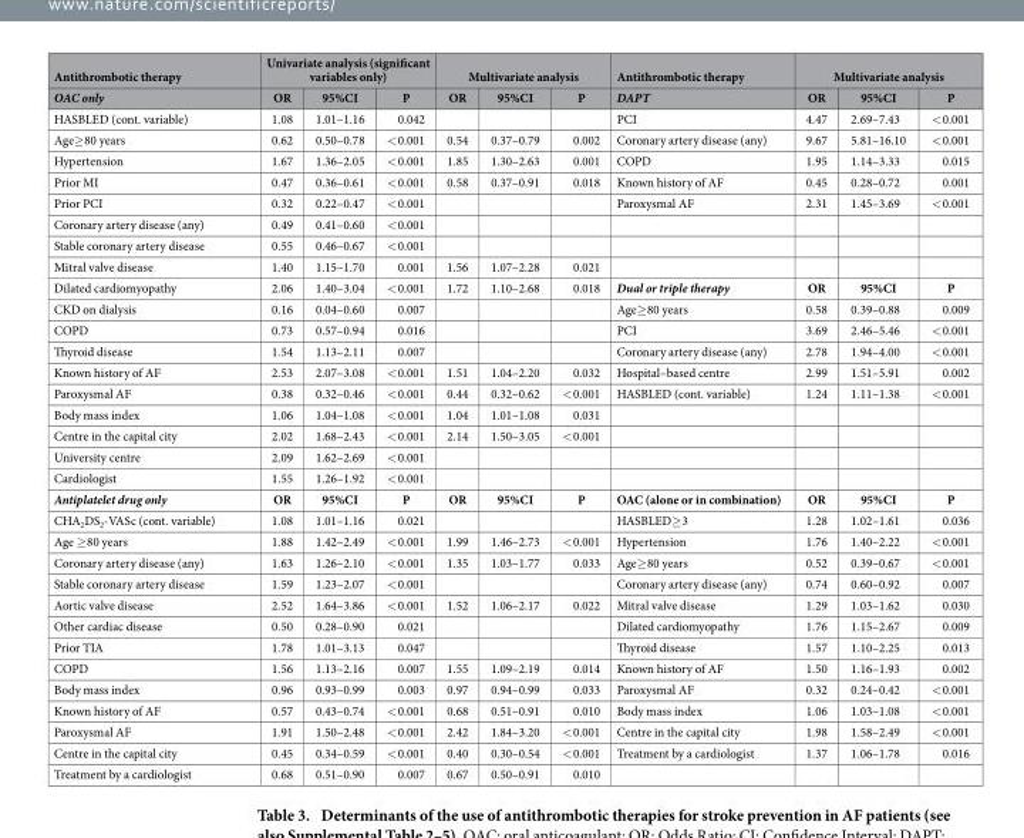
<table><thead><tr><td rowspan="2">Antithrombotic therapy OAC only</td><td colspan="3">Univariate analysis (significant variables only)</td><td colspan="3">Multivariate analysis</td><td rowspan="2">Antithrombotic therapy DAPT</td><td colspan="3">Multivariate analysis</td></tr><tr><td>OR</td><td>95%CI</td><td>P</td><td>OR</td><td>95%CI</td><td>P</td><td>OR</td><td>95%CI</td><td>P</td></tr></thead><tbody><tr><td>HASBLED (cont. variable)</td><td>1.08</td><td>1.01–1.16</td><td>0.042</td><td></td><td></td><td></td><td>PCI</td><td>4.47</td><td>2.69–7.43</td><td>&lt; 0.001</td></tr><tr><td>Age≥ 80 years</td><td>0.62</td><td>0.50–0.78</td><td>&lt; 0.001</td><td>0.54</td><td>0.37–0.79</td><td>0.002</td><td>Coronary artery disease (any)</td><td>9.67</td><td>5.81–16.10</td><td>&lt; 0.001</td></tr><tr><td>Hypertension</td><td>1.67</td><td>1.36–2.05</td><td>&lt; 0.001</td><td>1.85</td><td>1.30–2.63</td><td>0.001</td><td>COPD</td><td>1.95</td><td>1.14–3.33</td><td>0.015</td></tr><tr><td>Prior MI</td><td>0.47</td><td>0.36–0.61</td><td>&lt; 0.001</td><td>0.58</td><td>0.37–0.91</td><td>0.018</td><td>Known history of AF</td><td>0.45</td><td>0.28–0.72</td><td>0.001</td></tr><tr><td>Prior PCI</td><td>0.32</td><td>0.22–0.47</td><td>&lt; 0.001</td><td></td><td></td><td></td><td>Paroxysmal AF</td><td>2.31</td><td>1.45–3.69</td><td>&lt; 0.001</td></tr><tr><td>Coronary artery disease (any)</td><td>0.49</td><td>0.41–0.60</td><td>&lt; 0.001</td><td></td><td></td><td></td><td></td><td></td><td></td><td></td></tr><tr><td>Stable coronary artery disease</td><td>0.55</td><td>0.46–0.67</td><td>&lt; 0.001</td><td></td><td></td><td></td><td></td><td></td><td></td><td></td></tr><tr><td>Mitral valve disease</td><td>1.40</td><td>1.15–1.70</td><td>0.001</td><td>1.56</td><td>1.07–2.28</td><td>0.021</td><td></td><td></td><td></td><td></td></tr><tr><td>Dilated cardiomyopathy</td><td>2.06</td><td>1.40–3.04</td><td>&lt; 0.001</td><td>1.72</td><td>1.10–2.68</td><td>0.018</td><td>Dual or triple therapy</td><td>OR</td><td>95%CI</td><td>P</td></tr><tr><td>CKD on dialysis</td><td>0.16</td><td>0.04–0.60</td><td>0.007</td><td></td><td></td><td></td><td>Age≥ 80 years</td><td>0.58</td><td>0.39–0.88</td><td>0.009</td></tr><tr><td>COPD</td><td>0.73</td><td>0.57–0.94</td><td>0.016</td><td></td><td></td><td></td><td>PCI</td><td>3.69</td><td>2.46–5.46</td><td>&lt; 0.001</td></tr><tr><td>Thyroid disease</td><td>1.54</td><td>1.13–2.11</td><td>0.007</td><td></td><td></td><td></td><td>Coronary artery disease (any)</td><td>2.78</td><td>1.94–4.00</td><td>&lt; 0.001</td></tr><tr><td>Known history of AF</td><td>2.53</td><td>2.07–3.08</td><td>&lt; 0.001</td><td>1.51</td><td>1.04–2.20</td><td>0.032</td><td>Hospital–based centre</td><td>2.99</td><td>1.51–5.91</td><td>0.002</td></tr><tr><td>Paroxysmal AF</td><td>0.38</td><td>0.32–0.46</td><td>&lt; 0.001</td><td>0.44</td><td>0.32–0.62</td><td>&lt; 0.001</td><td>HASBLED (cont. variable)</td><td>1.24</td><td>1.11–1.38</td><td>&lt; 0.001</td></tr><tr><td>Body mass index</td><td>1.06</td><td>1.04–1.08</td><td>&lt; 0.001</td><td>1.04</td><td>1.01–1.08</td><td>0.031</td><td></td><td></td><td></td><td></td></tr><tr><td>Centre in the capital city</td><td>2.02</td><td>1.68–2.43</td><td>&lt; 0.001</td><td>2.14</td><td>1.50–3.05</td><td>&lt; 0.001</td><td></td><td></td><td></td><td></td></tr><tr><td>University centre</td><td>2.09</td><td>1.62–2.69</td><td>&lt; 0.001</td><td></td><td></td><td></td><td></td><td></td><td></td><td></td></tr><tr><td>Cardiologist</td><td>1.55</td><td>1.26–1.92</td><td>&lt; 0.001</td><td></td><td></td><td></td><td></td><td></td><td></td><td></td></tr><tr><td>Antiplatelet drug only</td><td>OR</td><td>95%CI</td><td>P</td><td>OR</td><td>95%CI</td><td>P</td><td>OAC (alone or in combination)</td><td>OR</td><td>95%CI</td><td>P</td></tr><tr><td>CHA<sub>2</sub>DS<sub>2</sub>-VASc (cont. variable)</td><td>1.08</td><td>1.01–1.16</td><td>0.021</td><td></td><td></td><td></td><td>HASBLED≥ 3</td><td>1.28</td><td>1.02–1.61</td><td>0.036</td></tr><tr><td>Age ≥ 80 years</td><td>1.88</td><td>1.42–2.49</td><td>&lt; 0.001</td><td>1.99</td><td>1.46–2.73</td><td>&lt; 0.001</td><td>Hypertension</td><td>1.76</td><td>1.40–2.22</td><td>&lt; 0.001</td></tr><tr><td>Coronary artery disease (any)</td><td>1.63</td><td>1.26–2.10</td><td>&lt; 0.001</td><td>1.35</td><td>1.03–1.77</td><td>0.033</td><td>Age≥ 80 years</td><td>0.52</td><td>0.39–0.67</td><td>&lt; 0.001</td></tr><tr><td>Stable coronary artery disease</td><td>1.59</td><td>1.23–2.07</td><td>&lt; 0.001</td><td></td><td></td><td></td><td>Coronary artery disease (any)</td><td>0.74</td><td>0.60–0.92</td><td>0.007</td></tr><tr><td>Aortic valve disease</td><td>2.52</td><td>1.64–3.86</td><td>&lt; 0.001</td><td>1.52</td><td>1.06–2.17</td><td>0.022</td><td>Mitral valve disease</td><td>1.29</td><td>1.03–1.62</td><td>0.030</td></tr><tr><td>Other cardiac disease</td><td>0.50</td><td>0.28–0.90</td><td>0.021</td><td></td><td></td><td></td><td>Dilated cardiomyopathy</td><td>1.76</td><td>1.15–2.67</td><td>0.009</td></tr><tr><td>Prior TIA</td><td>1.78</td><td>1.01–3.13</td><td>0.047</td><td></td><td></td><td></td><td>Thyroid disease</td><td>1.57</td><td>1.10–2.25</td><td>0.013</td></tr><tr><td>COPD</td><td>1.56</td><td>1.13–2.16</td><td>0.007</td><td>1.55</td><td>1.09–2.19</td><td>0.014</td><td>Known history of AF</td><td>1.50</td><td>1.16–1.93</td><td>0.002</td></tr><tr><td>Body mass index</td><td>0.96</td><td>0.93–0.99</td><td>0.003</td><td>0.97</td><td>0.94–0.99</td><td>0.033</td><td>Paroxysmal AF</td><td>0.32</td><td>0.24–0.42</td><td>&lt; 0.001</td></tr><tr><td>Known history of AF</td><td>0.57</td><td>0.43–0.74</td><td>&lt; 0.001</td><td>0.68</td><td>0.51–0.91</td><td>0.010</td><td>Body mass index</td><td>1.06</td><td>1.03–1.08</td><td>&lt; 0.001</td></tr><tr><td>Paroxysmal AF</td><td>1.91</td><td>1.50–2.48</td><td>&lt; 0.001</td><td>2.42</td><td>1.84–3.20</td><td>&lt; 0.001</td><td>Centre in the capital city</td><td>1.98</td><td>1.58–2.49</td><td>&lt; 0.001</td></tr><tr><td>Centre in the capital city</td><td>0.45</td><td>0.34–0.59</td><td>&lt; 0.001</td><td>0.40</td><td>0.30–0.54</td><td>&lt; 0.001</td><td>Treatment by a cardiologist</td><td>1.37</td><td>1.06–1.78</td><td>0.016</td></tr><tr><td>Treatment by a cardiologist</td><td>0.68</td><td>0.51–0.90</td><td>0.007</td><td>0.67</td><td>0.50–0.91</td><td>0.010</td><td></td><td></td><td></td><td></td></tr></tbody></table>